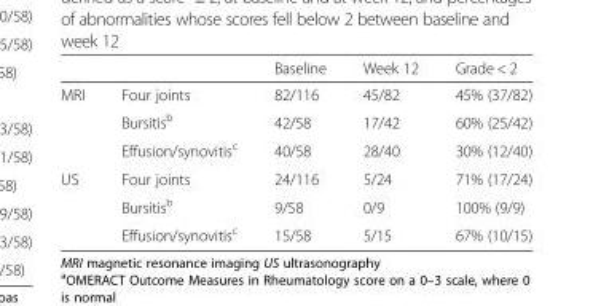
<table><thead><tr><td></td><td></td><td>Baseline</td><td>Week 12</td><td>Grade &lt; 2</td></tr></thead><tbody><tr><td rowspan="3">MRI</td><td>Four joints</td><td>82/116</td><td>45/82</td><td>45% (37/82)</td></tr><tr><td>Bursitis<sup>b</sup></td><td>42/58</td><td>17/42</td><td>60% (25/42)</td></tr><tr><td>Effusion/synovitis<sup>c</sup></td><td>40/58</td><td>28/40</td><td>30% (12/40)</td></tr><tr><td rowspan="3">US</td><td>Four joints</td><td>24/116</td><td>5/24</td><td>71% (17/24)</td></tr><tr><td>Bursitis<sup>b</sup></td><td>9/58</td><td>0/9</td><td>100% (9/9)</td></tr><tr><td>Effusion/synovitis<sup>c</sup></td><td>15/58</td><td>5/15</td><td>67% (10/15)</td></tr></tbody></table>